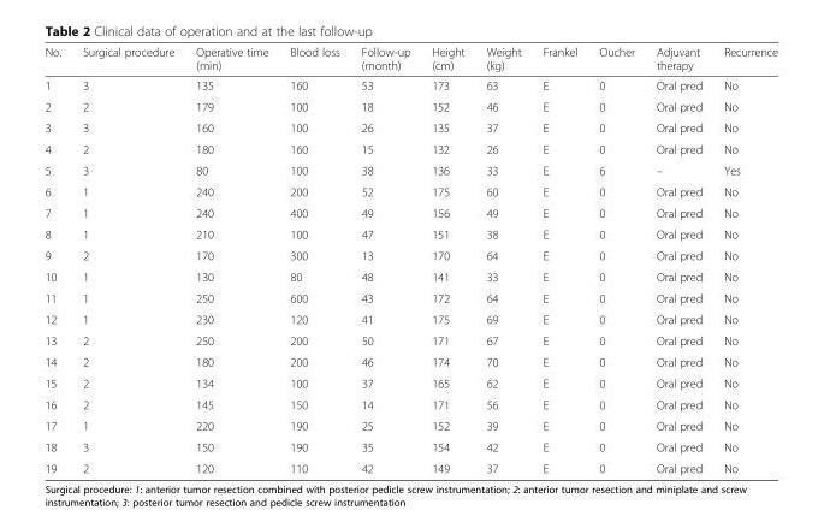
<table><thead><tr><td>No.</td><td>Surgical procedure</td><td>Operative time (min)</td><td>Blood loss</td><td>Follow-up (month)</td><td>Height (cm)</td><td>Weight (kg)</td><td>Frankel</td><td>Oucher</td><td>Adjuvant therapy</td><td>Recurrence</td></tr></thead><tbody><tr><td>1</td><td>3</td><td>135</td><td>160</td><td>53</td><td>173</td><td>63</td><td>E</td><td>0</td><td>Oral pred</td><td>No</td></tr><tr><td>2</td><td>2</td><td>179</td><td>100</td><td>18</td><td>152</td><td>46</td><td>E</td><td>0</td><td>Oral pred</td><td>No</td></tr><tr><td>3</td><td>3</td><td>160</td><td>100</td><td>26</td><td>135</td><td>37</td><td>E</td><td>0</td><td>Oral pred</td><td>No</td></tr><tr><td>4</td><td>2</td><td>180</td><td>160</td><td>15</td><td>132</td><td>26</td><td>E</td><td>0</td><td>Oral pred</td><td>No</td></tr><tr><td>5</td><td>3</td><td>80</td><td>100</td><td>38</td><td>136</td><td>33</td><td>E</td><td>6</td><td>–</td><td>Yes</td></tr><tr><td>6</td><td>1</td><td>240</td><td>200</td><td>52</td><td>175</td><td>60</td><td>E</td><td>0</td><td>Oral pred</td><td>No</td></tr><tr><td>7</td><td>1</td><td>240</td><td>400</td><td>49</td><td>156</td><td>49</td><td>E</td><td>0</td><td>Oral pred</td><td>No</td></tr><tr><td>8</td><td>1</td><td>210</td><td>100</td><td>47</td><td>151</td><td>38</td><td>E</td><td>0</td><td>Oral pred</td><td>No</td></tr><tr><td>9</td><td>2</td><td>170</td><td>300</td><td>13</td><td>170</td><td>64</td><td>E</td><td>0</td><td>Oral pred</td><td>No</td></tr><tr><td>10</td><td>1</td><td>130</td><td>80</td><td>48</td><td>141</td><td>33</td><td>E</td><td>0</td><td>Oral pred</td><td>No</td></tr><tr><td>11</td><td>1</td><td>250</td><td>600</td><td>43</td><td>172</td><td>64</td><td>E</td><td>0</td><td>Oral pred</td><td>No</td></tr><tr><td>12</td><td>1</td><td>230</td><td>120</td><td>41</td><td>175</td><td>69</td><td>E</td><td>0</td><td>Oral pred</td><td>No</td></tr><tr><td>13</td><td>2</td><td>250</td><td>200</td><td>50</td><td>171</td><td>67</td><td>E</td><td>0</td><td>Oral pred</td><td>No</td></tr><tr><td>14</td><td>2</td><td>180</td><td>200</td><td>46</td><td>174</td><td>70</td><td>E</td><td>0</td><td>Oral pred</td><td>No</td></tr><tr><td>15</td><td>2</td><td>134</td><td>100</td><td>37</td><td>165</td><td>62</td><td>E</td><td>0</td><td>Oral pred</td><td>No</td></tr><tr><td>16</td><td>2</td><td>145</td><td>150</td><td>14</td><td>171</td><td>56</td><td>E</td><td>0</td><td>Oral pred</td><td>No</td></tr><tr><td>17</td><td>1</td><td>220</td><td>190</td><td>25</td><td>152</td><td>39</td><td>E</td><td>0</td><td>Oral pred</td><td>No</td></tr><tr><td>18</td><td>3</td><td>150</td><td>190</td><td>35</td><td>154</td><td>42</td><td>E</td><td>0</td><td>Oral pred</td><td>No</td></tr><tr><td>19</td><td>2</td><td>120</td><td>110</td><td>42</td><td>149</td><td>37</td><td>E</td><td>0</td><td>Oral pred</td><td>No</td></tr></tbody></table>